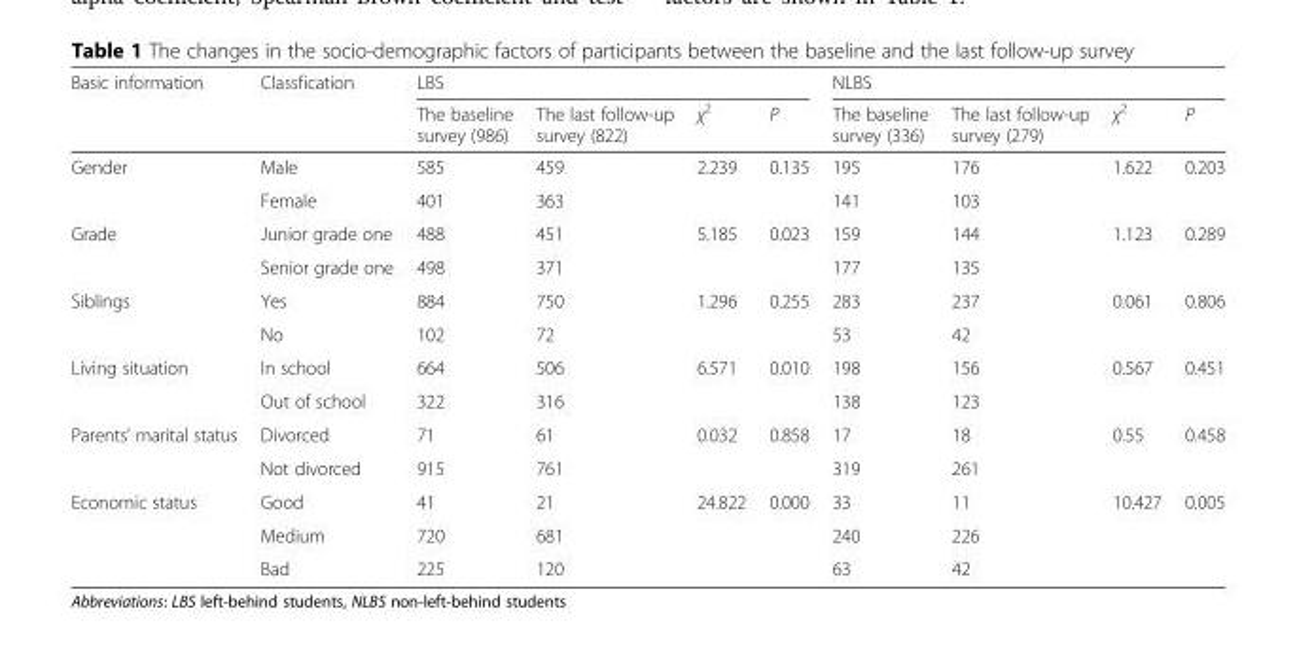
<table><thead><tr><td rowspan="2">Basic information</td><td rowspan="2">Classfication</td><td colspan="4">LBS</td><td colspan="4">NLBS</td></tr><tr><td>The baseline survey (986)</td><td>The last follow-up survey (822)</td><td>χ<sup>2</sup></td><td>P</td><td>The baseline survey (336)</td><td>The last follow-up survey (279)</td><td>χ<sup>2</sup></td><td>P</td></tr></thead><tbody><tr><td rowspan="2">Gender</td><td>Male</td><td>585</td><td>459</td><td rowspan="2">2.239</td><td rowspan="2">0.135</td><td>195</td><td>176</td><td rowspan="2">1.622</td><td rowspan="2">0.203</td></tr><tr><td>Female</td><td>401</td><td>363</td><td>141</td><td>103</td></tr><tr><td rowspan="2">Grade</td><td>Junior grade one</td><td>488</td><td>451</td><td rowspan="2">5.185</td><td rowspan="2">0.023</td><td>159</td><td>144</td><td rowspan="2">1.123</td><td rowspan="2">0.289</td></tr><tr><td>Senior grade one</td><td>498</td><td>371</td><td>177</td><td>135</td></tr><tr><td rowspan="2">Siblings</td><td>Yes</td><td>884</td><td>750</td><td rowspan="2">1.296</td><td rowspan="2">0.255</td><td>283</td><td>237</td><td rowspan="2">0.061</td><td rowspan="2">0.806</td></tr><tr><td>No</td><td>102</td><td>72</td><td>53</td><td>42</td></tr><tr><td rowspan="2">Living situation</td><td>In school</td><td>664</td><td>506</td><td rowspan="2">6.571</td><td rowspan="2">0.010</td><td>198</td><td>156</td><td rowspan="2">0.567</td><td rowspan="2">0.451</td></tr><tr><td>Out of school</td><td>322</td><td>316</td><td>138</td><td>123</td></tr><tr><td rowspan="2">Parents’ marital status</td><td>Divorced</td><td>71</td><td>61</td><td rowspan="2">0.032</td><td rowspan="2">0.858</td><td>17</td><td>18</td><td rowspan="2">0.55</td><td rowspan="2">0.458</td></tr><tr><td>Not divorced</td><td>915</td><td>761</td><td>319</td><td>261</td></tr><tr><td rowspan="3">Economic status</td><td>Good</td><td>41</td><td>21</td><td rowspan="3">24.822</td><td rowspan="3">0.000</td><td>33</td><td>11</td><td rowspan="3">10.427</td><td rowspan="3">0.005</td></tr><tr><td>Medium</td><td>720</td><td>681</td><td>240</td><td>226</td></tr><tr><td>Bad</td><td>225</td><td>120</td><td>63</td><td>42</td></tr></tbody></table>